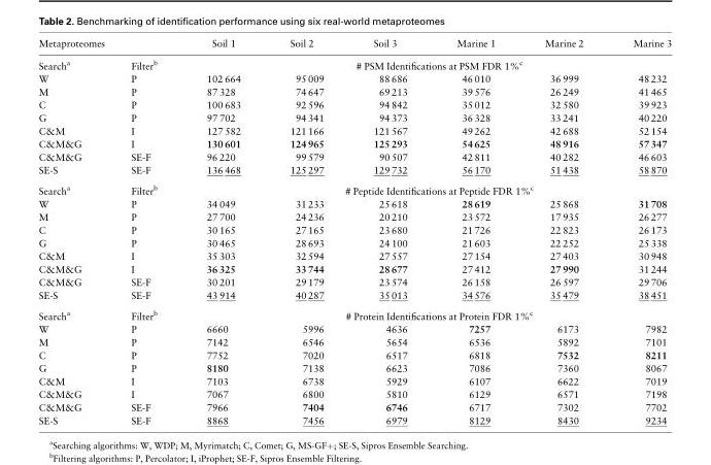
<table><thead><tr><td colspan="2">Metaproteomes</td><td>Soil 1</td><td>Soil 2</td><td>Soil 3</td><td>Marine 1</td><td>Marine 2</td><td>Marine 3</td></tr><tr><td>Search<sup>a</sup></td><td>Filter<sup>b</sup></td><td colspan="6"># PSM Identifications at PSM FDR 1%<sup>c</sup></td></tr></thead><tbody><tr><td>W</td><td>P</td><td>102 664</td><td>95 009</td><td>88 686</td><td>46 010</td><td>36 999</td><td>48 232</td></tr><tr><td>M</td><td>P</td><td>87 328</td><td>74 647</td><td>69 213</td><td>39 576</td><td>26 249</td><td>41 465</td></tr><tr><td>C</td><td>P</td><td>100 683</td><td>92 596</td><td>94 842</td><td>35 012</td><td>32 580</td><td>39 923</td></tr><tr><td>G</td><td>P</td><td>97 702</td><td>94 341</td><td>94 373</td><td>36 328</td><td>33 241</td><td>40 220</td></tr><tr><td>C&amp;M</td><td>I</td><td>127 582</td><td>121 166</td><td>121 567</td><td>49 262</td><td>42 688</td><td>52 154</td></tr><tr><td>C&amp;M&amp;G</td><td>I</td><td>130 601</td><td>124 965</td><td>125 293</td><td>54 625</td><td>48 916</td><td>57 347</td></tr><tr><td>C&amp;M&amp;G</td><td>SE-F</td><td>96 220</td><td>99 579</td><td>90 507</td><td>42 811</td><td>40 282</td><td>46 603</td></tr><tr><td>SE-S</td><td>SE-F</td><td>136 468</td><td>125 297</td><td>129 732</td><td>56 170</td><td>51 438</td><td>58 870</td></tr><tr><td>Search<sup>a</sup></td><td>Filter<sup>b</sup></td><td colspan="6"># Peptide Identifications at Peptide FDR 1%<sup>c</sup></td></tr><tr><td>W</td><td>P</td><td>34 049</td><td>31 233</td><td>25 618</td><td>28 619</td><td>25 868</td><td>31 708</td></tr><tr><td>M</td><td>P</td><td>27 700</td><td>24 236</td><td>20 210</td><td>23 572</td><td>17 935</td><td>26 277</td></tr><tr><td>C</td><td>P</td><td>30 165</td><td>27 165</td><td>23 680</td><td>21 726</td><td>22 823</td><td>26 173</td></tr><tr><td>G</td><td>P</td><td>30 465</td><td>28 693</td><td>24 100</td><td>21 603</td><td>22 252</td><td>25 338</td></tr><tr><td>C&amp;M</td><td>I</td><td>35 303</td><td>32 594</td><td>27 557</td><td>27 154</td><td>27 403</td><td>30 948</td></tr><tr><td>C&amp;M&amp;G</td><td>I</td><td>36 325</td><td>33 744</td><td>28 677</td><td>27 412</td><td>27 990</td><td>31 244</td></tr><tr><td>C&amp;M&amp;G</td><td>SE-F</td><td>30 201</td><td>29 179</td><td>23 574</td><td>26 158</td><td>26 597</td><td>29 706</td></tr><tr><td>SE-S</td><td>SE-F</td><td>43 914</td><td>40 287</td><td>35 013</td><td>34 576</td><td>35 479</td><td>38 451</td></tr><tr><td>Search<sup>a</sup></td><td>Filter<sup>b</sup></td><td colspan="6"># Protein Identifications at Protein FDR 1%<sup>c</sup></td></tr><tr><td>W</td><td>P</td><td>6660</td><td>5996</td><td>4636</td><td>7257</td><td>6173</td><td>7982</td></tr><tr><td>M</td><td>P</td><td>7142</td><td>6546</td><td>5654</td><td>6536</td><td>5892</td><td>7101</td></tr><tr><td>C</td><td>P</td><td>7752</td><td>7020</td><td>6517</td><td>6818</td><td>7532</td><td>8211</td></tr><tr><td>G</td><td>P</td><td>8180</td><td>7138</td><td>6623</td><td>7086</td><td>7360</td><td>8067</td></tr><tr><td>C&amp;M</td><td>I</td><td>7103</td><td>6738</td><td>5929</td><td>6107</td><td>6622</td><td>7019</td></tr><tr><td>C&amp;M&amp;G</td><td>I</td><td>7067</td><td>6800</td><td>5810</td><td>6129</td><td>6571</td><td>7198</td></tr><tr><td>C&amp;M&amp;G</td><td>SE-F</td><td>7966</td><td>7404</td><td>6746</td><td>6717</td><td>7302</td><td>7702</td></tr><tr><td>SE-S</td><td>SE-F</td><td>8868</td><td>7456</td><td>6979</td><td>8129</td><td>8430</td><td>9234</td></tr></tbody></table>